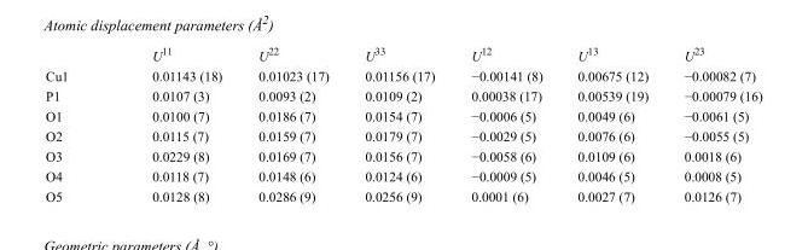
<table><thead><tr><td></td><td>U<sup>11</sup></td><td>U<sup>22</sup></td><td>U<sup>33</sup></td><td>U<sup>12</sup></td><td>U<sup>13</sup></td><td>U<sup>23</sup></td></tr></thead><tbody><tr><td>Cu1</td><td>0.01143 (18)</td><td>0.01023 (17)</td><td>0.01156 (17)</td><td>−0.00141 (8)</td><td>0.00675 (12)</td><td>−0.00082 (7)</td></tr><tr><td>P1</td><td>0.0107 (3)</td><td>0.0093 (2)</td><td>0.0109 (2)</td><td>0.00038 (17)</td><td>0.00539 (19)</td><td>−0.00079 (16)</td></tr><tr><td>O1</td><td>0.0100 (7)</td><td>0.0186 (7)</td><td>0.0154 (7)</td><td>−0.0006 (5)</td><td>0.0049 (6)</td><td>−0.0061 (5)</td></tr><tr><td>O2</td><td>0.0115 (7)</td><td>0.0159 (7)</td><td>0.0179 (7)</td><td>−0.0029 (5)</td><td>0.0076 (6)</td><td>−0.0055 (5)</td></tr><tr><td>O3</td><td>0.0229 (8)</td><td>0.0169 (7)</td><td>0.0156 (7)</td><td>−0.0058 (6)</td><td>0.0109 (6)</td><td>0.0018 (6)</td></tr><tr><td>O4</td><td>0.0118 (7)</td><td>0.0148 (6)</td><td>0.0124 (6)</td><td>−0.0009 (5)</td><td>0.0046 (5)</td><td>0.0008 (5)</td></tr><tr><td>O5</td><td>0.0128 (8)</td><td>0.0286 (9)</td><td>0.0256 (9)</td><td>0.0001 (6)</td><td>0.0027 (7)</td><td>0.0126 (7)</td></tr></tbody></table>